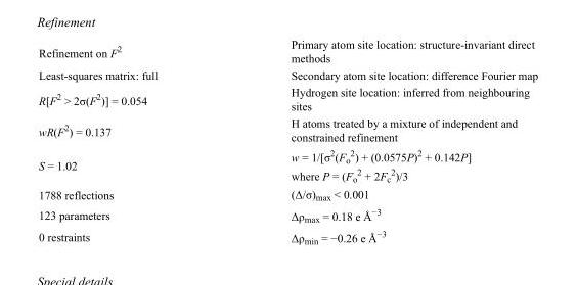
<table><tbody><tr><td>Refinement on F<sup>2</sup></td><td>Primary atom site location: structure-invariant direct methods</td></tr><tr><td>Least-squares matrix: full</td><td>Secondary atom site location: difference Fourier map</td></tr><tr><td>R[F<sup>2</sup> &gt; 2σ(F<sup>2</sup>)] = 0.054</td><td>Hydrogen site location: inferred from neighbouring sites</td></tr><tr><td>wR(F<sup>2</sup>) = 0.137</td><td>H atoms treated by a mixture of independent and constrained refinement</td></tr><tr><td>S = 1.02</td><td>w = 1/[σ<sup>2</sup>(F<sub>o</sub> <sup>2</sup>) + (0.0575P)<sup>2</sup> + 0.142P] where P = (F<sub>o</sub> <sup>2</sup> + 2F<sub>c</sub> <sup>2</sup>)/3</td></tr><tr><td>1788 reflections</td><td>(Δ/σ)<sub>max</sub> &lt; 0.001</td></tr><tr><td>123 parameters</td><td>Δρ<sub>max</sub> = 0.18 e Å<sup>−3</sup></td></tr><tr><td>0 restraints</td><td>Δρ<sub>min</sub> = −0.26 e Å<sup>−3</sup></td></tr></tbody></table>